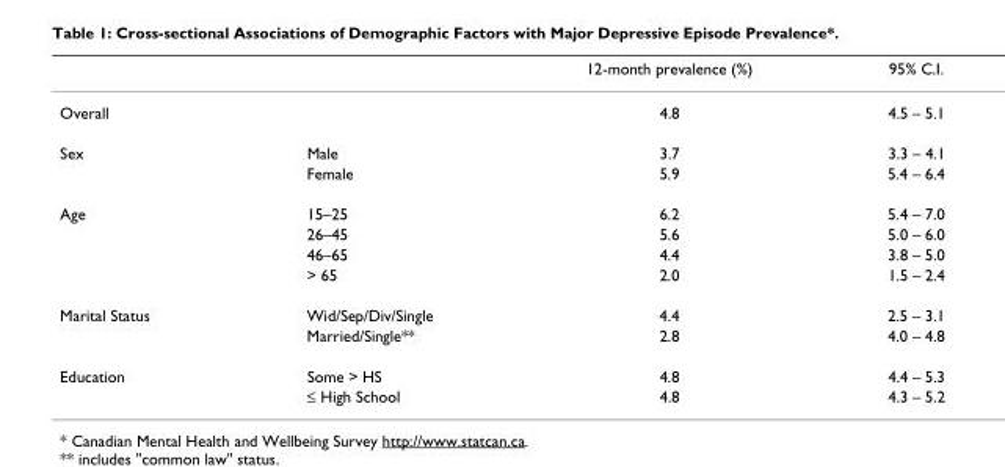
<table><thead><tr><td></td><td></td><td>12-month prevalence (%)</td><td>95% C.I.</td></tr></thead><tbody><tr><td>Overall</td><td></td><td>4.8</td><td>4.5 – 5.1</td></tr><tr><td rowspan="2">Sex</td><td>Male</td><td>3.7</td><td>3.3 – 4.1</td></tr><tr><td>Female</td><td>5.9</td><td>5.4 – 6.4</td></tr><tr><td rowspan="4">Age</td><td>15–25</td><td>6.2</td><td>5.4 – 7.0</td></tr><tr><td>26–45</td><td>5.6</td><td>5.0 – 6.0</td></tr><tr><td>46–65</td><td>4.4</td><td>3.8 – 5.0</td></tr><tr><td>&gt; 65</td><td>2.0</td><td>1.5 – 2.4</td></tr><tr><td rowspan="2">Marital Status</td><td>Wid/Sep/Div/Single</td><td>4.4</td><td>2.5 – 3.1</td></tr><tr><td>Married/Single**</td><td>2.8</td><td>4.0 – 4.8</td></tr><tr><td rowspan="2">Education</td><td>Some &gt; HS</td><td>4.8</td><td>4.4 – 5.3</td></tr><tr><td>≤ High School</td><td>4.8</td><td>4.3 – 5.2</td></tr></tbody></table>